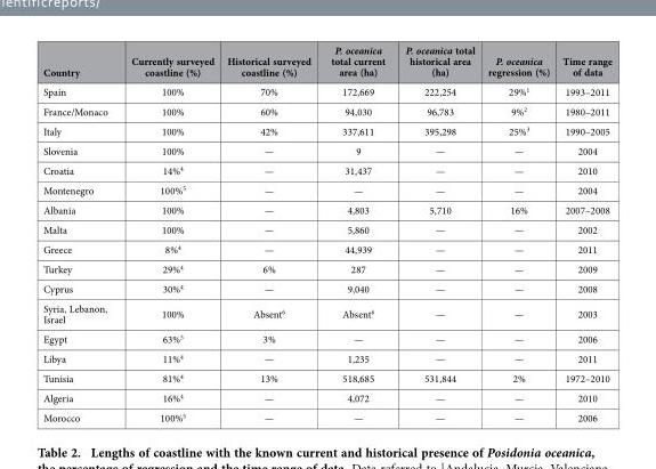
<table><thead><tr><td>Country</td><td>Currently surveyed coastline (%)</td><td>Historical surveyed coastline (%)</td><td>P. oceanica total current area (ha)</td><td>P. oceanica total historical area (ha)</td><td>P. oceanica regression (%)</td><td>Time range of data</td></tr></thead><tbody><tr><td>Spain</td><td>100%</td><td>70%</td><td>172,669</td><td>222,254</td><td>29%<sup>1</sup></td><td>1993–2011</td></tr><tr><td>France/Monaco</td><td>100%</td><td>60%</td><td>94,030</td><td>96,783</td><td>9%<sup>2</sup></td><td>1980–2011</td></tr><tr><td>Italy</td><td>100%</td><td>42%</td><td>337,611</td><td>395,298</td><td>25%<sup>3</sup></td><td>1990–2005</td></tr><tr><td>Slovenia</td><td>100%</td><td>—</td><td>9</td><td>—</td><td>—</td><td>2004</td></tr><tr><td>Croatia</td><td>14%<sup>4</sup></td><td>—</td><td>31,437</td><td>—</td><td>—</td><td>2010</td></tr><tr><td>Montenegro</td><td>100%<sup>5</sup></td><td>—</td><td>—</td><td>—</td><td>—</td><td>2004</td></tr><tr><td>Albania</td><td>100%</td><td>—</td><td>4,803</td><td>5,710</td><td>16%</td><td>2007–2008</td></tr><tr><td>Malta</td><td>100%</td><td>—</td><td>5,860</td><td>—</td><td>—</td><td>2002</td></tr><tr><td>Greece</td><td>8%<sup>4</sup></td><td>—</td><td>44,939</td><td>—</td><td>—</td><td>2011</td></tr><tr><td>Turkey</td><td>29%<sup>4</sup></td><td>6%</td><td>287</td><td>—</td><td>—</td><td>2009</td></tr><tr><td>Cyprus</td><td>30%<sup>4</sup></td><td>—</td><td>9,040</td><td>—</td><td>—</td><td>2008</td></tr><tr><td>Syria, Lebanon, Israel</td><td>100%</td><td>Absent<sup>6</sup></td><td>Absent<sup>6</sup></td><td>—</td><td>—</td><td>2003</td></tr><tr><td>Egypt</td><td>63%<sup>5</sup></td><td>3%</td><td>—</td><td>—</td><td>—</td><td>2006</td></tr><tr><td>Libya</td><td>11%<sup>4</sup></td><td>—</td><td>1,235</td><td>—</td><td>—</td><td>2011</td></tr><tr><td>Tunisia</td><td>81%<sup>4</sup></td><td>13%</td><td>518,685</td><td>531,844</td><td>2%</td><td>1972–2010</td></tr><tr><td>Algeria</td><td>16%<sup>4</sup></td><td>—</td><td>4,072</td><td>—</td><td>—</td><td>2010</td></tr><tr><td>Morocco</td><td>100%<sup>5</sup></td><td>—</td><td>—</td><td>—</td><td>—</td><td>2006</td></tr></tbody></table>